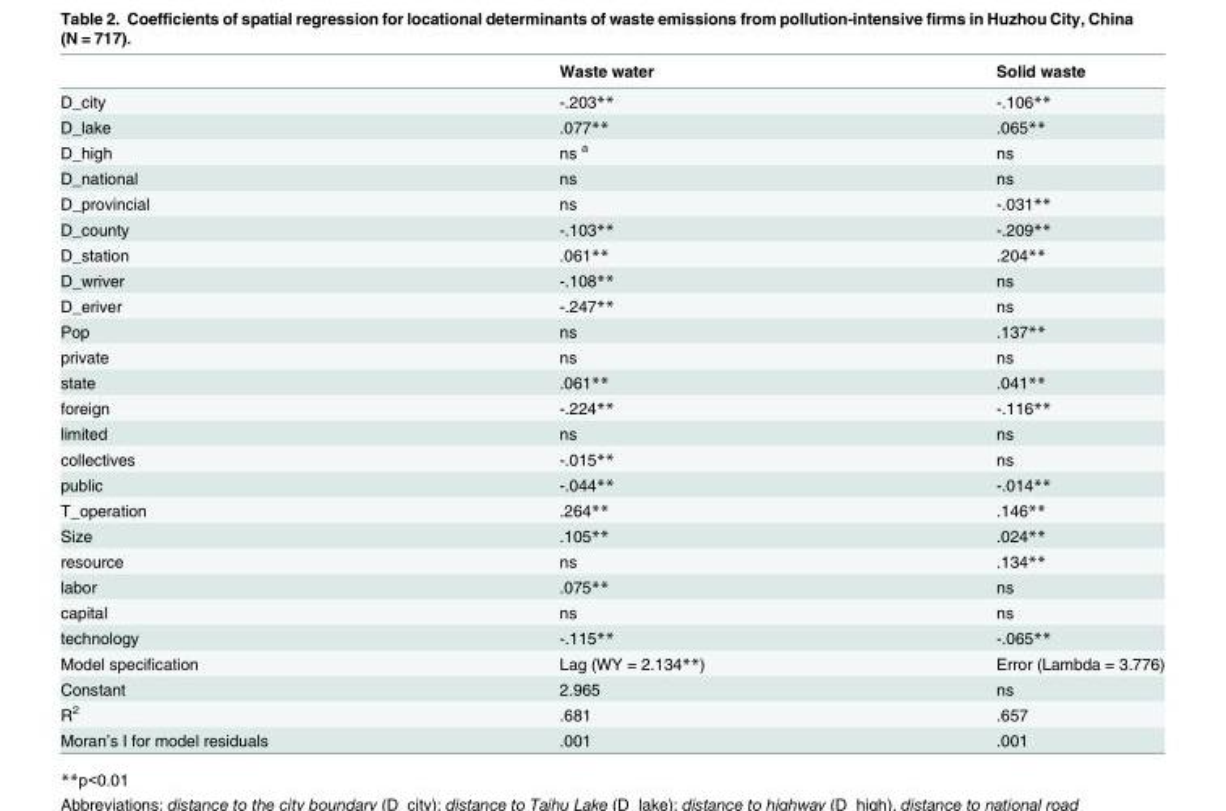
<table><thead><tr><td></td><td>Waste water</td><td>Solid waste</td></tr></thead><tbody><tr><td>D_city</td><td>-.203**</td><td>-.106**</td></tr><tr><td>D_lake</td><td>.077**</td><td>.065**</td></tr><tr><td>D_high</td><td>ns <sup>a</sup></td><td>ns</td></tr><tr><td>D_national</td><td>ns</td><td>ns</td></tr><tr><td>D_provincial</td><td>ns</td><td>-.031**</td></tr><tr><td>D_county</td><td>-.103**</td><td>-.209**</td></tr><tr><td>D_station</td><td>.061**</td><td>.204**</td></tr><tr><td>D_wriver</td><td>-.108**</td><td>ns</td></tr><tr><td>D_eriver</td><td>-.247**</td><td>ns</td></tr><tr><td>Pop</td><td>ns</td><td>.137**</td></tr><tr><td>private</td><td>ns</td><td>ns</td></tr><tr><td>state</td><td>.061**</td><td>.041**</td></tr><tr><td>foreign</td><td>-.224**</td><td>-.116**</td></tr><tr><td>limited</td><td>ns</td><td>ns</td></tr><tr><td>collectives</td><td>-.015**</td><td>ns</td></tr><tr><td>public</td><td>-.044**</td><td>-.014**</td></tr><tr><td>T_operation</td><td>.264**</td><td>.146**</td></tr><tr><td>Size</td><td>.105**</td><td>.024**</td></tr><tr><td>resource</td><td>ns</td><td>.134**</td></tr><tr><td>labor</td><td>.075**</td><td>ns</td></tr><tr><td>capital</td><td>ns</td><td>ns</td></tr><tr><td>technology</td><td>-.115**</td><td>-.065**</td></tr><tr><td>Model specification</td><td>Lag (WY = 2.134**)</td><td>Error (Lambda = 3.776)</td></tr><tr><td>Constant</td><td>2.965</td><td>ns</td></tr><tr><td>R<sup>2</sup></td><td>.681</td><td>.657</td></tr><tr><td>Moran’s I for model residuals</td><td>.001</td><td>.001</td></tr></tbody></table>